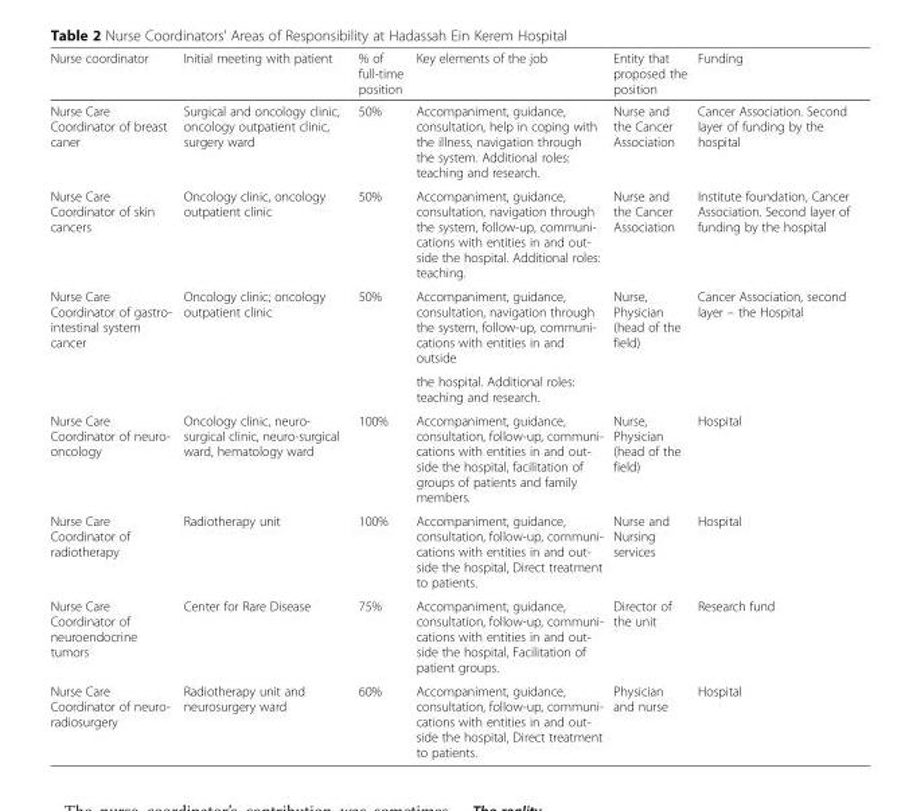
<table><thead><tr><td>Nurse coordinator</td><td>Initial meeting with patient</td><td>% of full-time position</td><td>Key elements of the job</td><td>Entity that proposed the position</td><td>Funding</td></tr></thead><tbody><tr><td>Nurse Care Coordinator of breast caner</td><td>Surgical and oncology clinic, oncology outpatient clinic, surgery ward</td><td>50%</td><td>Accompaniment, guidance, consultation, help in coping with the illness, navigation through the system. Additional roles: teaching and research.</td><td>Nurse and the Cancer Association</td><td>Cancer Association. Second layer of funding by the hospital</td></tr><tr><td>Nurse Care Coordinator of skin cancers</td><td>Oncology clinic, oncology outpatient clinic</td><td>50%</td><td>Accompaniment, guidance, consultation, navigation through the system, follow-up, communi- cations with entities in and out- side the hospital. Additional roles: teaching.</td><td>Nurse and the Cancer Association</td><td>Institute foundation, Cancer Association. Second layer of funding by the hospital</td></tr><tr><td rowspan="2">Nurse Care Coordinator of gastro- intestinal system cancer</td><td>Oncology clinic; oncology outpatient clinic</td><td>50%</td><td>Accompaniment, guidance, consultation, navigation through the system, follow-up, communi- cations with entities in and outside</td><td>Nurse, Physician (head of the field)</td><td>Cancer Association, second layer – the Hospital</td></tr><tr><td></td><td></td><td>the hospital. Additional roles: teaching and research.</td><td></td><td></td></tr><tr><td>Nurse Care Coordinator of neuro- oncology</td><td>Oncology clinic, neuro- surgical clinic, neuro-surgical ward, hematology ward</td><td>100%</td><td>Accompaniment, guidance, consultation, follow-up, communi- cations with entities in and out- side the hospital, facilitation of groups of patients and family members.</td><td>Nurse, Physician (head of the field)</td><td>Hospital</td></tr><tr><td>Nurse Care Coordinator of radiotherapy</td><td>Radiotherapy unit</td><td>100%</td><td>Accompaniment, guidance, consultation, follow-up, communi- cations with entities in and out- side the hospital, Direct treatment to patients.</td><td>Nurse and Nursing services</td><td>Hospital</td></tr><tr><td>Nurse Care Coordinator of neuroendocrine tumors</td><td>Center for Rare Disease</td><td>75%</td><td>Accompaniment, guidance, consultation, follow-up, communi- cations with entities in and out- side the hospital, Facilitation of patient groups.</td><td>Director of the unit</td><td>Research fund</td></tr><tr><td>Nurse Care Coordinator of neuro- radiosurgery</td><td>Radiotherapy unit and neurosurgery ward</td><td>60%</td><td>Accompaniment, guidance, consultation, follow-up, communi- cations with entities in and out- side the hospital, Direct treatment to patients.</td><td>Physician and nurse</td><td>Hospital</td></tr></tbody></table>